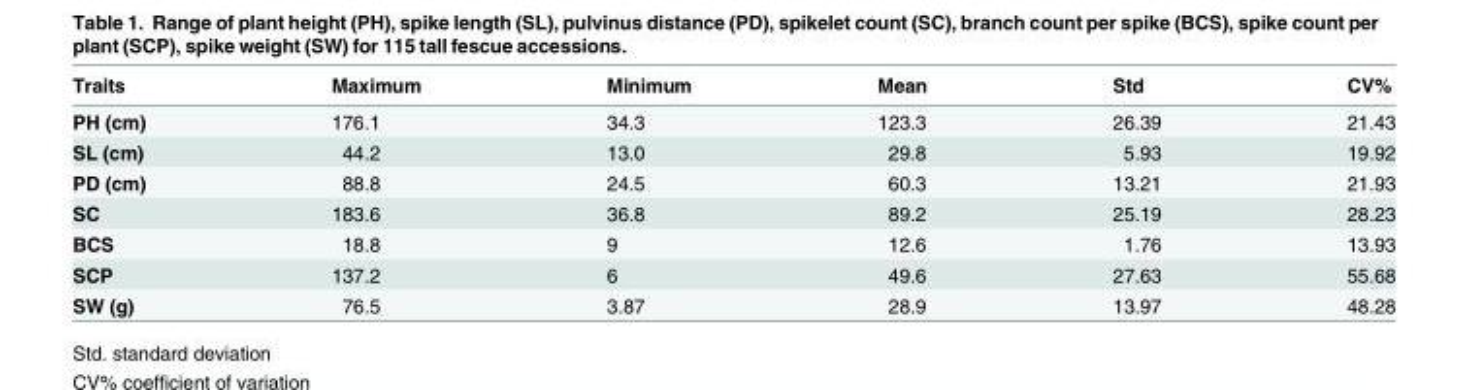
<table><thead><tr><td>Traits</td><td>Maximum</td><td>Minimum</td><td>Mean</td><td>Std</td><td>CV%</td></tr></thead><tbody><tr><td>PH (cm)</td><td>176.1</td><td>34.3</td><td>123.3</td><td>26.39</td><td>21.43</td></tr><tr><td>SL (cm)</td><td>44.2</td><td>13.0</td><td>29.8</td><td>5.93</td><td>19.92</td></tr><tr><td>PD (cm)</td><td>88.8</td><td>24.5</td><td>60.3</td><td>13.21</td><td>21.93</td></tr><tr><td>SC</td><td>183.6</td><td>36.8</td><td>89.2</td><td>25.19</td><td>28.23</td></tr><tr><td>BCS</td><td>18.8</td><td>9</td><td>12.6</td><td>1.76</td><td>13.93</td></tr><tr><td>SCP</td><td>137.2</td><td>6</td><td>49.6</td><td>27.63</td><td>55.68</td></tr><tr><td>SW (g)</td><td>76.5</td><td>3.87</td><td>28.9</td><td>13.97</td><td>48.28</td></tr></tbody></table>